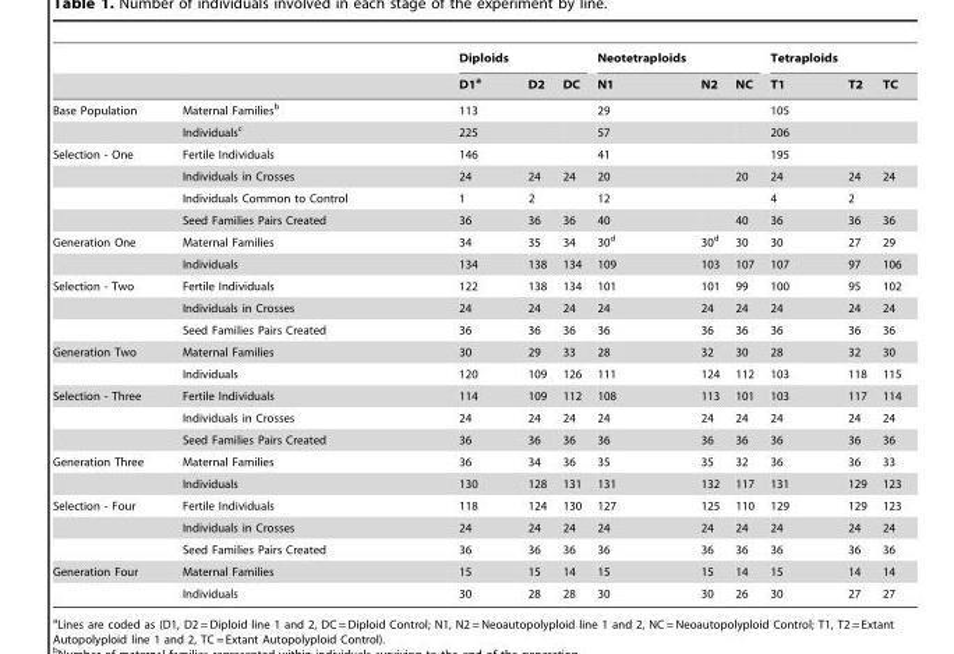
<table><thead><tr><td rowspan="2"></td><td rowspan="2"></td><td colspan="3">Diploids</td><td colspan="3">Neotetraploids</td><td colspan="3">Tetraploids</td></tr><tr><td>D1<sup>a</sup></td><td>D2</td><td>DC</td><td>N1</td><td>N2</td><td>NC</td><td>T1</td><td>T2</td><td>TC</td></tr></thead><tbody><tr><td rowspan="2">Base Population</td><td>Maternal Families<sup>b</sup></td><td>113</td><td></td><td></td><td>29</td><td></td><td></td><td>105</td><td></td><td></td></tr><tr><td>Individuals<sup>c</sup></td><td>225</td><td></td><td></td><td>57</td><td></td><td></td><td>206</td><td></td><td></td></tr><tr><td rowspan="4">Selection - One</td><td>Fertile Individuals</td><td>146</td><td></td><td></td><td>41</td><td></td><td></td><td>195</td><td></td><td></td></tr><tr><td>Individuals in Crosses</td><td>24</td><td>24</td><td>24</td><td>20</td><td></td><td>20</td><td>24</td><td>24</td><td>24</td></tr><tr><td>Individuals Common to Control</td><td>1</td><td>2</td><td></td><td>12</td><td></td><td></td><td>4</td><td>2</td><td></td></tr><tr><td>Seed Families Pairs Created</td><td>36</td><td>36</td><td>36</td><td>40</td><td></td><td>40</td><td>36</td><td>36</td><td>36</td></tr><tr><td rowspan="2">Generation One</td><td>Maternal Families</td><td>34</td><td>35</td><td>34</td><td>30<sup>d</sup></td><td>30<sup>d</sup></td><td>30</td><td>30</td><td>27</td><td>29</td></tr><tr><td>Individuals</td><td>134</td><td>138</td><td>134</td><td>109</td><td>103</td><td>107</td><td>107</td><td>97</td><td>106</td></tr><tr><td rowspan="3">Selection - Two</td><td>Fertile Individuals</td><td>122</td><td>138</td><td>134</td><td>101</td><td>101</td><td>99</td><td>100</td><td>95</td><td>102</td></tr><tr><td>Individuals in Crosses</td><td>24</td><td>24</td><td>24</td><td>24</td><td>24</td><td>24</td><td>24</td><td>24</td><td>24</td></tr><tr><td>Seed Families Pairs Created</td><td>36</td><td>36</td><td>36</td><td>36</td><td>36</td><td>36</td><td>36</td><td>36</td><td>36</td></tr><tr><td rowspan="2">Generation Two</td><td>Maternal Families</td><td>30</td><td>29</td><td>33</td><td>28</td><td>32</td><td>30</td><td>28</td><td>32</td><td>30</td></tr><tr><td>Individuals</td><td>120</td><td>109</td><td>126</td><td>111</td><td>124</td><td>112</td><td>103</td><td>118</td><td>115</td></tr><tr><td rowspan="3">Selection - Three</td><td>Fertile Individuals</td><td>114</td><td>109</td><td>112</td><td>108</td><td>113</td><td>101</td><td>103</td><td>117</td><td>114</td></tr><tr><td>Individuals in Crosses</td><td>24</td><td>24</td><td>24</td><td>24</td><td>24</td><td>24</td><td>24</td><td>24</td><td>24</td></tr><tr><td>Seed Families Pairs Created</td><td>36</td><td>36</td><td>36</td><td>36</td><td>36</td><td>36</td><td>36</td><td>36</td><td>36</td></tr><tr><td rowspan="2">Generation Three</td><td>Maternal Families</td><td>36</td><td>34</td><td>36</td><td>35</td><td>35</td><td>32</td><td>36</td><td>36</td><td>33</td></tr><tr><td>Individuals</td><td>130</td><td>128</td><td>131</td><td>131</td><td>132</td><td>117</td><td>131</td><td>129</td><td>123</td></tr><tr><td rowspan="3">Selection - Four</td><td>Fertile Individuals</td><td>118</td><td>124</td><td>130</td><td>127</td><td>125</td><td>110</td><td>129</td><td>129</td><td>123</td></tr><tr><td>Individuals in Crosses</td><td>24</td><td>24</td><td>24</td><td>24</td><td>24</td><td>24</td><td>24</td><td>24</td><td>24</td></tr><tr><td>Seed Families Pairs Created</td><td>36</td><td>36</td><td>36</td><td>36</td><td>36</td><td>36</td><td>36</td><td>36</td><td>36</td></tr><tr><td rowspan="2">Generation Four</td><td>Maternal Families</td><td>15</td><td>15</td><td>14</td><td>15</td><td>15</td><td>14</td><td>15</td><td>14</td><td>14</td></tr><tr><td>Individuals</td><td>30</td><td>28</td><td>28</td><td>30</td><td>30</td><td>26</td><td>30</td><td>27</td><td>27</td></tr></tbody></table>